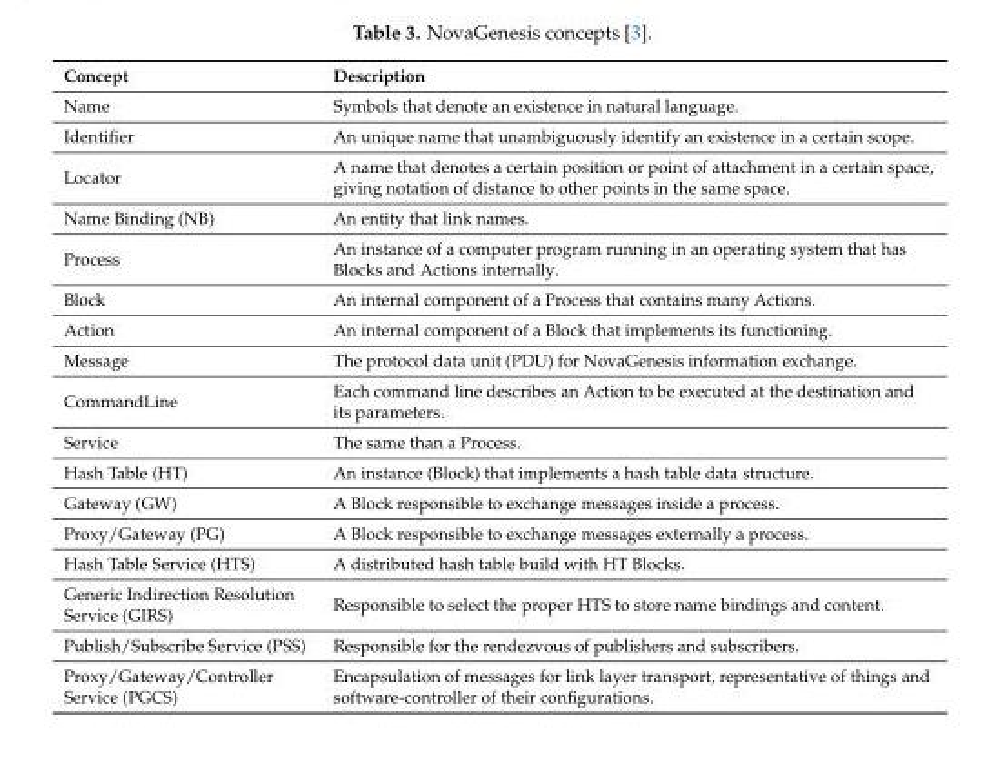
<table><thead><tr><td>Concept</td><td>Description</td></tr></thead><tbody><tr><td>Name</td><td>Symbols that denote an existence in natural language.</td></tr><tr><td>Identifier</td><td>An unique name that unambiguously identify an existence in a certain scope.</td></tr><tr><td>Locator</td><td>A name that denotes a certain position or point of attachment in a certain space, giving notation of distance to other points in the same space.</td></tr><tr><td>Name Binding (NB)</td><td>An entity that link names.</td></tr><tr><td>Process</td><td>An instance of a computer program running in an operating system that has Blocks and Actions internally.</td></tr><tr><td>Block</td><td>An internal component of a Process that contains many Actions.</td></tr><tr><td>Action</td><td>An internal component of a Block that implements its functioning.</td></tr><tr><td>Message</td><td>The protocol data unit (PDU) for NovaGenesis information exchange.</td></tr><tr><td>CommandLine</td><td>Each command line describes an Action to be executed at the destination and its parameters.</td></tr><tr><td>Service</td><td>The same than a Process.</td></tr><tr><td>Hash Table (HT)</td><td>An instance (Block) that implements a hash table data structure.</td></tr><tr><td>Gateway (GW)</td><td>A Block responsible to exchange messages inside a process.</td></tr><tr><td>Proxy/Gateway (PG)</td><td>A Block responsible to exchange messages externally a process.</td></tr><tr><td>Hash Table Service (HTS)</td><td>A distributed hash table build with HT Blocks.</td></tr><tr><td>Generic Indirection Resolution Service (GIRS)</td><td>Responsible to select the proper HTS to store name bindings and content.</td></tr><tr><td>Publish/Subscribe Service (PSS)</td><td>Responsible for the rendezvous of publishers and subscribers.</td></tr><tr><td>Proxy/Gateway/Controller Service (PGCS)</td><td>Encapsulation of messages for link layer transport, representative of things and software-controller of their configurations.</td></tr></tbody></table>